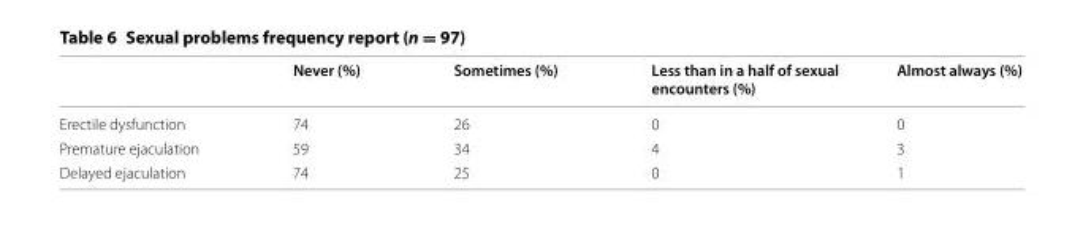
<table><thead><tr><td></td><td>Never (%)</td><td>Sometimes (%)</td><td>Less than in a half of sexual encounters (%)</td><td>Almost always (%)</td></tr></thead><tbody><tr><td>Erectile dysfunction</td><td>74</td><td>26</td><td>0</td><td>0</td></tr><tr><td>Premature ejaculation</td><td>59</td><td>34</td><td>4</td><td>3</td></tr><tr><td>Delayed ejaculation</td><td>74</td><td>25</td><td>0</td><td>1</td></tr></tbody></table>